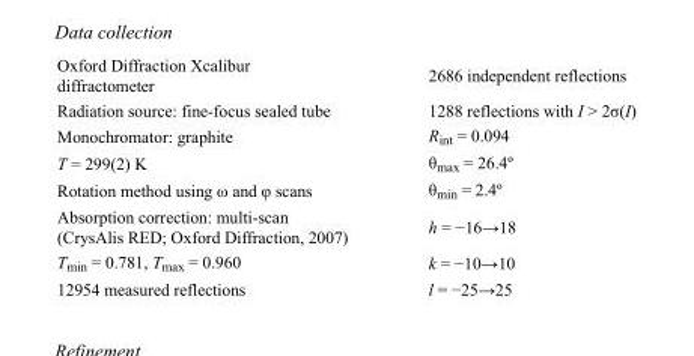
<table><tbody><tr><td>Oxford Diffraction Xcalibur diffractometer</td><td>2686 independent reflections</td></tr><tr><td>Radiation source: fine-focus sealed tube</td><td>1288 reflections with I &gt; 2σ(I)</td></tr><tr><td>Monochromator: graphite</td><td>R<sub>int</sub> = 0.094</td></tr><tr><td>T = 299(2) K</td><td>θ<sub>max</sub> = 26.4º</td></tr><tr><td>Rotation method using ω and φ scans</td><td>θ<sub>min</sub> = 2.4º</td></tr><tr><td>Absorption correction: multi-scan (CrysAlis RED; Oxford Diffraction, 2007)</td><td>h = −16→18</td></tr><tr><td>T<sub>min</sub> = 0.781, T<sub>max</sub> = 0.960</td><td>k = −10→10</td></tr><tr><td>12954 measured reflections</td><td>l = −25→25</td></tr></tbody></table>